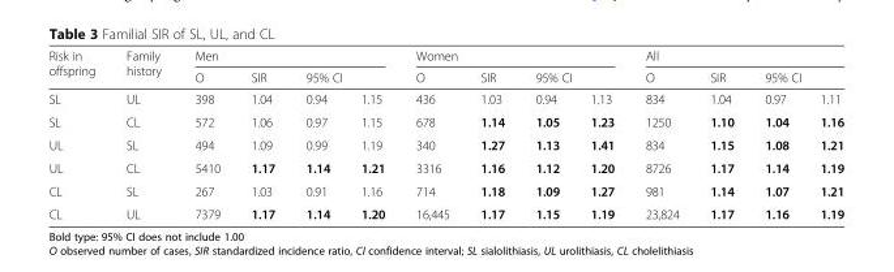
<table><thead><tr><td rowspan="3">Risk in offspring SL</td><td rowspan="3">Family history UL</td><td colspan="4">Men</td><td colspan="4">Women</td><td colspan="4">All</td></tr><tr><td rowspan="2">O 398</td><td rowspan="2">SIR 1.04</td><td colspan="2">95% CI</td><td rowspan="2">O 436</td><td rowspan="2">SIR 1.03</td><td colspan="2">95% CI</td><td rowspan="2">O 834</td><td rowspan="2">SIR 1.04</td><td colspan="2">95% CI</td></tr><tr><td>0.94</td><td>1.15</td><td>0.94</td><td>1.13</td><td>0.97</td><td>1.11</td></tr></thead><tbody><tr><td>SL</td><td>CL</td><td>572</td><td>1.06</td><td>0.97</td><td>1.15</td><td>678</td><td>1.14</td><td>1.05</td><td>1.23</td><td>1250</td><td>1.10</td><td>1.04</td><td>1.16</td></tr><tr><td>UL</td><td>SL</td><td>494</td><td>1.09</td><td>0.99</td><td>1.19</td><td>340</td><td>1.27</td><td>1.13</td><td>1.41</td><td>834</td><td>1.15</td><td>1.08</td><td>1.21</td></tr><tr><td>UL</td><td>CL</td><td>5410</td><td>1.17</td><td>1.14</td><td>1.21</td><td>3316</td><td>1.16</td><td>1.12</td><td>1.20</td><td>8726</td><td>1.17</td><td>1.14</td><td>1.19</td></tr><tr><td>CL</td><td>SL</td><td>267</td><td>1.03</td><td>0.91</td><td>1.16</td><td>714</td><td>1.18</td><td>1.09</td><td>1.27</td><td>981</td><td>1.14</td><td>1.07</td><td>1.21</td></tr><tr><td>CL</td><td>UL</td><td>7379</td><td>1.17</td><td>1.14</td><td>1.20</td><td>16,445</td><td>1.17</td><td>1.15</td><td>1.19</td><td>23,824</td><td>1.17</td><td>1.16</td><td>1.19</td></tr></tbody></table>